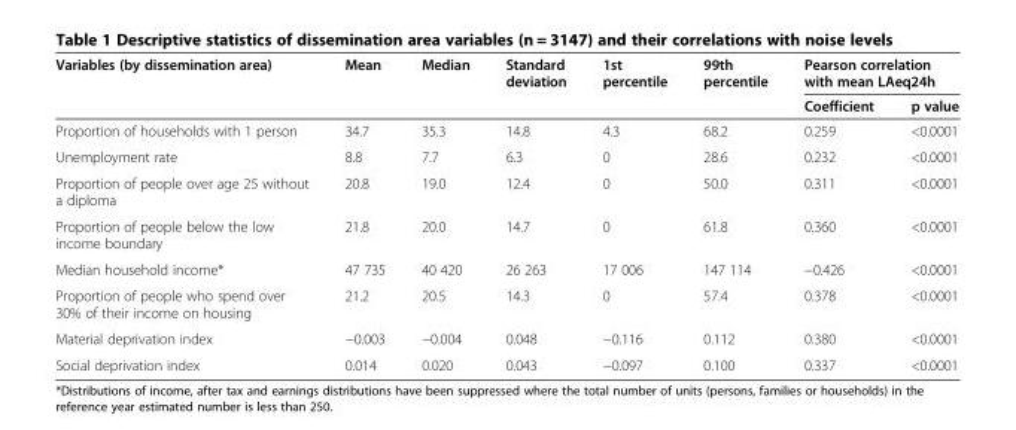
<table><thead><tr><td rowspan="2">Variables (by dissemination area)</td><td rowspan="2">Mean</td><td rowspan="2">Median</td><td rowspan="2">Standard deviation</td><td rowspan="2">1st percentile</td><td rowspan="2">99th percentile</td><td colspan="2">Pearson correlation with mean LAeq24h</td></tr><tr><td>Coefficient</td><td>p value</td></tr></thead><tbody><tr><td>Proportion of households with 1 person</td><td>34.7</td><td>35.3</td><td>14.8</td><td>4.3</td><td>68.2</td><td>0.259</td><td>&lt;0.0001</td></tr><tr><td>Unemployment rate</td><td>8.8</td><td>7.7</td><td>6.3</td><td>0</td><td>28.6</td><td>0.232</td><td>&lt;0.0001</td></tr><tr><td>Proportion of people over age 25 without a diploma</td><td>20.8</td><td>19.0</td><td>12.4</td><td>0</td><td>50.0</td><td>0.311</td><td>&lt;0.0001</td></tr><tr><td>Proportion of people below the low income boundary</td><td>21.8</td><td>20.0</td><td>14.7</td><td>0</td><td>61.8</td><td>0.360</td><td>&lt;0.0001</td></tr><tr><td>Median household income*</td><td>47 735</td><td>40 420</td><td>26 263</td><td>17 006</td><td>147 114</td><td>−0.426</td><td>&lt;0.0001</td></tr><tr><td>Proportion of people who spend over 30% of their income on housing</td><td>21.2</td><td>20.5</td><td>14.3</td><td>0</td><td>57.4</td><td>0.378</td><td>&lt;0.0001</td></tr><tr><td>Material deprivation index</td><td>−0.003</td><td>−0.004</td><td>0.048</td><td>−0.116</td><td>0.112</td><td>0.380</td><td>&lt;0.0001</td></tr><tr><td>Social deprivation index</td><td>0.014</td><td>0.020</td><td>0.043</td><td>−0.097</td><td>0.100</td><td>0.337</td><td>&lt;0.0001</td></tr></tbody></table>